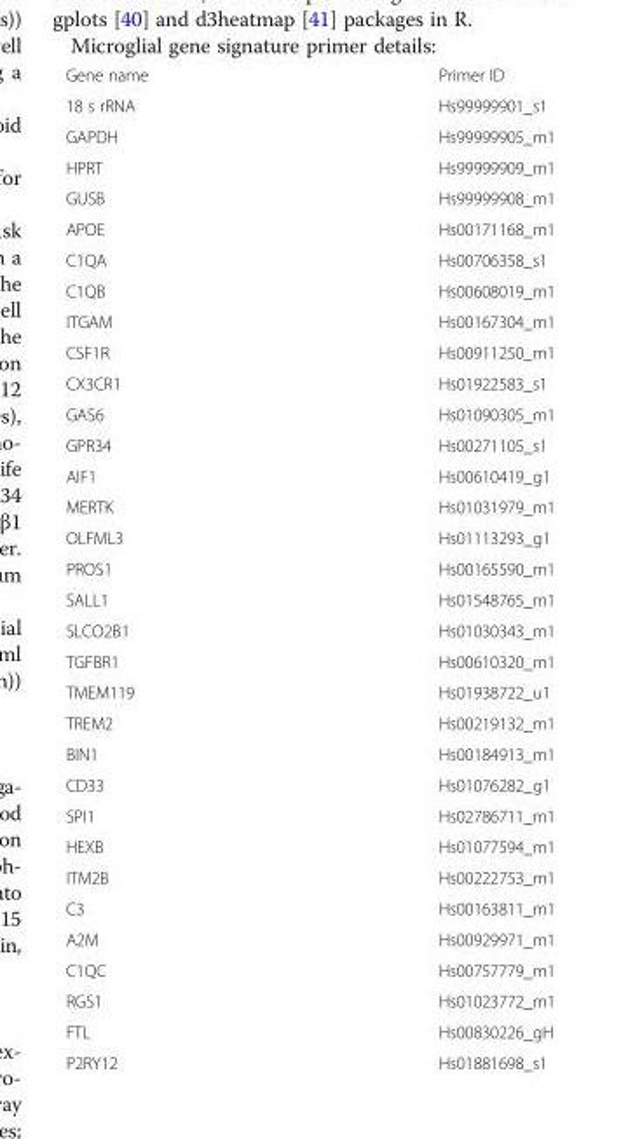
<table><tbody><tr><td>Gene name</td><td>Primer ID</td></tr><tr><td>18 s rRNA</td><td>Hs99999901_s1</td></tr><tr><td>GAPDH</td><td>Hs99999905_m1</td></tr><tr><td>HPRT</td><td>Hs99999909_m1</td></tr><tr><td>GUSB</td><td>Hs99999908_m1</td></tr><tr><td>APOE</td><td>Hs00171168_m1</td></tr><tr><td>C1QA</td><td>Hs00706358_s1</td></tr><tr><td>C1QB</td><td>Hs00608019_m1</td></tr><tr><td>ITGAM</td><td>Hs00167304_m1</td></tr><tr><td>CSF1R</td><td>Hs00911250_m1</td></tr><tr><td>CX3CR1</td><td>Hs01922583_s1</td></tr><tr><td>GAS6</td><td>Hs01090305_m1</td></tr><tr><td>GPR34</td><td>Hs00271105_s1</td></tr><tr><td>AIF1</td><td>Hs00610419_g1</td></tr><tr><td>MERTK</td><td>Hs01031979_m1</td></tr><tr><td>OLFML3</td><td>Hs01113293_g1</td></tr><tr><td>PROS1</td><td>Hs00165590_m1</td></tr><tr><td>SALL1</td><td>Hs01548765_m1</td></tr><tr><td>SLCO2B1</td><td>Hs01030343_m1</td></tr><tr><td>TGFBR1</td><td>Hs00610320_m1</td></tr><tr><td>TMEM119</td><td>Hs01938722_u1</td></tr><tr><td>TREM2</td><td>Hs00219132_m1</td></tr><tr><td>BIN1</td><td>Hs00184913_m1</td></tr><tr><td>CD33</td><td>Hs01076282_g1</td></tr><tr><td>SPI1</td><td>Hs02786711_m1</td></tr><tr><td>HEXB</td><td>Hs01077594_m1</td></tr><tr><td>ITM2B</td><td>Hs00222753_m1</td></tr><tr><td>C3</td><td>Hs00163811_m1</td></tr><tr><td>A2M</td><td>Hs00929971_m1</td></tr><tr><td>C1QC</td><td>Hs00757779_m1</td></tr><tr><td>RGS1</td><td>Hs01023772_m1</td></tr><tr><td>FTL</td><td>Hs00830226_gH</td></tr><tr><td>P2RY12</td><td>Hs01881698_s1</td></tr></tbody></table>